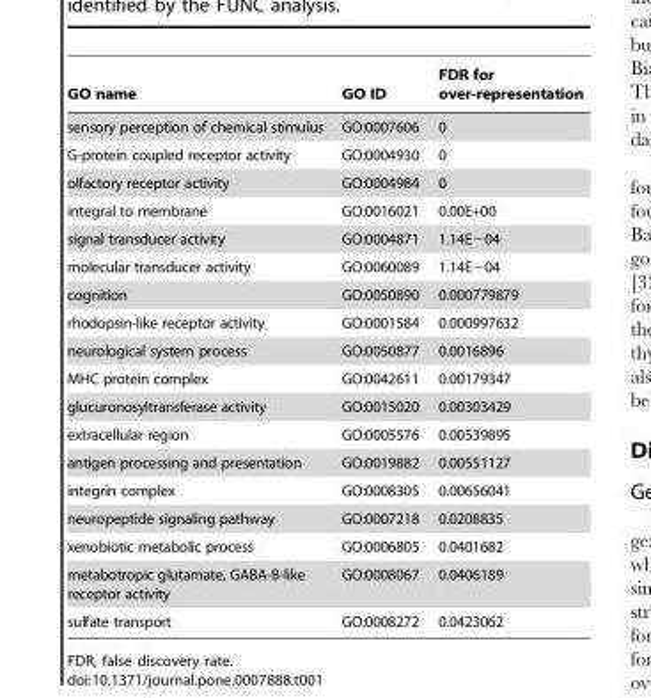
<table><thead><tr><td>GO name</td><td>GO ID</td><td>FDR for over-representation</td></tr></thead><tbody><tr><td>sensory perception of chemical stimulus</td><td>GO:0007606</td><td>0</td></tr><tr><td>G-protein coupled receptor activity</td><td>GO:0004930</td><td>0</td></tr><tr><td>olfactory receptor activity</td><td>GO:0004984</td><td>0</td></tr><tr><td>integral to membrane</td><td>GO:0016021</td><td>0.00E+00</td></tr><tr><td>signal transducer activity</td><td>GO:0004871</td><td>1.14E−04</td></tr><tr><td>molecular transducer activity</td><td>GO:0060089</td><td>1.14E−04</td></tr><tr><td>cognition</td><td>GO:0050890</td><td>0.000779879</td></tr><tr><td>rhodopsin-like receptor activity</td><td>GO:0001584</td><td>0.000997632</td></tr><tr><td>neurological system process</td><td>GO:0050877</td><td>0.0016896</td></tr><tr><td>MHC protein complex</td><td>GO:0042611</td><td>0.00179347</td></tr><tr><td>glucuronosyltransferase activity</td><td>GO:0015020</td><td>0.00303429</td></tr><tr><td>extracellular region</td><td>GO:0005576</td><td>0.00539895</td></tr><tr><td>antigen processing and presentation</td><td>GO:0019882</td><td>0.00551127</td></tr><tr><td>integrin complex</td><td>GO:0008305</td><td>0.00656041</td></tr><tr><td>neuropeptide signaling pathway</td><td>GO:0007218</td><td>0.0208835</td></tr><tr><td>xenobiotic metabolic process</td><td>GO:0006805</td><td>0.0401682</td></tr><tr><td>metabotropic glutamate, GABA-B-like receptor activity</td><td>GO:0008067</td><td>0.0406189</td></tr><tr><td>sulfate transport</td><td>GO:0008272</td><td>0.0423062</td></tr></tbody></table>